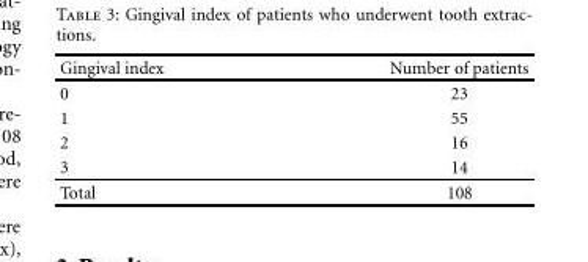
<table><thead><tr><td>Gingival index</td><td>Number of patients</td></tr></thead><tbody><tr><td>0</td><td>23</td></tr><tr><td>1</td><td>55</td></tr><tr><td>2</td><td>16</td></tr><tr><td>3</td><td>14</td></tr><tr><td>Total</td><td>108</td></tr></tbody></table>